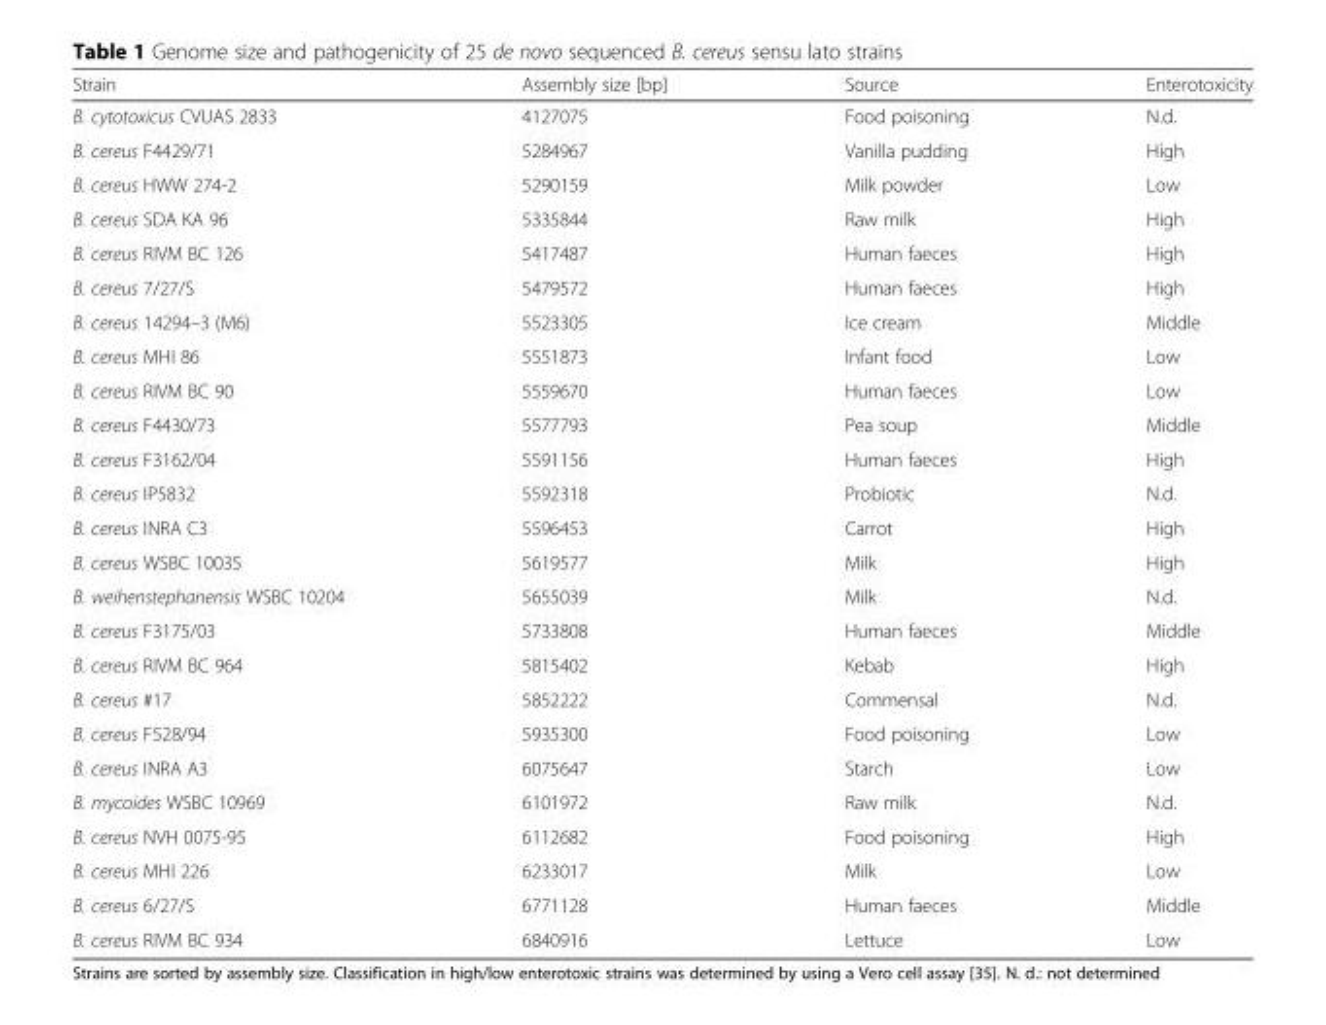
<table><thead><tr><td>Strain</td><td>Assembly size [bp]</td><td>Source</td><td>Enterotoxicity</td></tr></thead><tbody><tr><td>B. cytotoxicus CVUAS 2833</td><td>4127075</td><td>Food poisoning</td><td>N.d.</td></tr><tr><td>B. cereus F4429/71</td><td>5284967</td><td>Vanilla pudding</td><td>High</td></tr><tr><td>B. cereus HWW 274-2</td><td>5290159</td><td>Milk powder</td><td>Low</td></tr><tr><td>B. cereus SDA KA 96</td><td>5335844</td><td>Raw milk</td><td>High</td></tr><tr><td>B. cereus RIVM BC 126</td><td>5417487</td><td>Human faeces</td><td>High</td></tr><tr><td>B. cereus 7/27/S</td><td>5479572</td><td>Human faeces</td><td>High</td></tr><tr><td>B. cereus 14294–3 (M6)</td><td>5523305</td><td>Ice cream</td><td>Middle</td></tr><tr><td>B. cereus MHI 86</td><td>5551873</td><td>Infant food</td><td>Low</td></tr><tr><td>B. cereus RIVM BC 90</td><td>5559670</td><td>Human faeces</td><td>Low</td></tr><tr><td>B. cereus F4430/73</td><td>5577793</td><td>Pea soup</td><td>Middle</td></tr><tr><td>B. cereus F3162/04</td><td>5591156</td><td>Human faeces</td><td>High</td></tr><tr><td>B. cereus IP5832</td><td>5592318</td><td>Probiotic</td><td>N.d.</td></tr><tr><td>B. cereus INRA C3</td><td>5596453</td><td>Carrot</td><td>High</td></tr><tr><td>B. cereus WSBC 10035</td><td>5619577</td><td>Milk</td><td>High</td></tr><tr><td>B. weihenstephanensis WSBC 10204</td><td>5655039</td><td>Milk</td><td>N.d.</td></tr><tr><td>B. cereus F3175/03</td><td>5733808</td><td>Human faeces</td><td>Middle</td></tr><tr><td>B. cereus RIVM BC 964</td><td>5815402</td><td>Kebab</td><td>High</td></tr><tr><td>B. cereus #17</td><td>5852222</td><td>Commensal</td><td>N.d.</td></tr><tr><td>B. cereus F528/94</td><td>5935300</td><td>Food poisoning</td><td>Low</td></tr><tr><td>B. cereus INRA A3</td><td>6075647</td><td>Starch</td><td>Low</td></tr><tr><td>B. mycoides WSBC 10969</td><td>6101972</td><td>Raw milk</td><td>N.d.</td></tr><tr><td>B. cereus NVH 0075-95</td><td>6112682</td><td>Food poisoning</td><td>High</td></tr><tr><td>B. cereus MHI 226</td><td>6233017</td><td>Milk</td><td>Low</td></tr><tr><td>B. cereus 6/27/S</td><td>6771128</td><td>Human faeces</td><td>Middle</td></tr><tr><td>B. cereus RIVM BC 934</td><td>6840916</td><td>Lettuce</td><td>Low</td></tr></tbody></table>